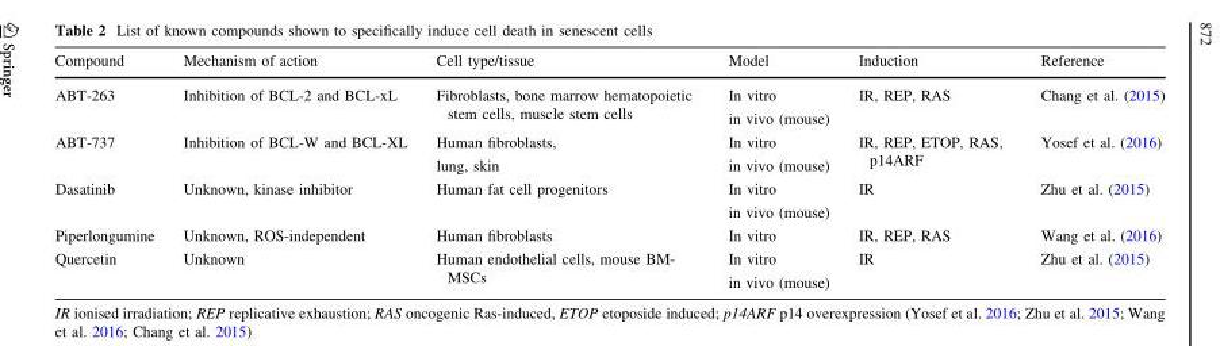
<table><thead><tr><td>Compound</td><td>Mechanism of action</td><td>Cell type/tissue</td><td>Model</td><td>Induction</td><td>Reference</td></tr></thead><tbody><tr><td>ABT-263</td><td>Inhibition of BCL-2 and BCL-xL</td><td>Fibroblasts, bone marrow hematopoietic stem cells, muscle stem cells</td><td>In vitro in vivo (mouse)</td><td>IR, REP, RAS</td><td>Chang et al. (2015)</td></tr><tr><td>ABT-737</td><td>Inhibition of BCL-W and BCL-XL</td><td>Human fibroblasts, lung, skin</td><td>In vitro in vivo (mouse)</td><td>IR, REP, ETOP, RAS, p14ARF</td><td>Yosef et al. (2016)</td></tr><tr><td>Dasatinib</td><td>Unknown, kinase inhibitor</td><td>Human fat cell progenitors</td><td>In vitro in vivo (mouse)</td><td>IR</td><td>Zhu et al. (2015)</td></tr><tr><td>Piperlongumine</td><td>Unknown, ROS-independent</td><td>Human fibroblasts</td><td>In vitro</td><td>IR, REP, RAS</td><td>Wang et al. (2016)</td></tr><tr><td>Quercetin</td><td>Unknown</td><td>Human endothelial cells, mouse BM- MSCs</td><td>In vitro in vivo (mouse)</td><td>IR</td><td>Zhu et al. (2015)</td></tr></tbody></table>